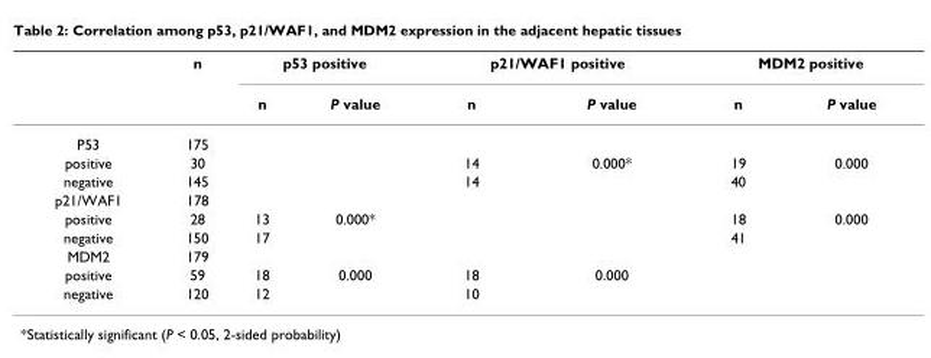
<table><thead><tr><td rowspan="2"></td><td rowspan="2">n</td><td colspan="2">p53 positive</td><td colspan="2">p21/WAF1 positive</td><td colspan="2">MDM2 positive</td></tr><tr><td>n</td><td>P value</td><td>n</td><td>P value</td><td>n</td><td>P value</td></tr></thead><tbody><tr><td>P53</td><td>175</td><td></td><td></td><td></td><td></td><td></td><td></td></tr><tr><td>positive</td><td>30</td><td></td><td></td><td>14</td><td>0.000*</td><td>19</td><td>0.000</td></tr><tr><td>negative</td><td>145</td><td></td><td></td><td>14</td><td></td><td>40</td><td></td></tr><tr><td>p21/WAF1</td><td>178</td><td></td><td></td><td></td><td></td><td></td><td></td></tr><tr><td>positive</td><td>28</td><td>13</td><td>0.000*</td><td></td><td></td><td>18</td><td>0.000</td></tr><tr><td>negative</td><td>150</td><td>17</td><td></td><td></td><td></td><td>41</td><td></td></tr><tr><td>MDM2</td><td>179</td><td></td><td></td><td></td><td></td><td></td><td></td></tr><tr><td>positive</td><td>59</td><td>18</td><td>0.000</td><td>18</td><td>0.000</td><td></td><td></td></tr><tr><td>negative</td><td>120</td><td>12</td><td></td><td>10</td><td></td><td></td><td></td></tr></tbody></table>